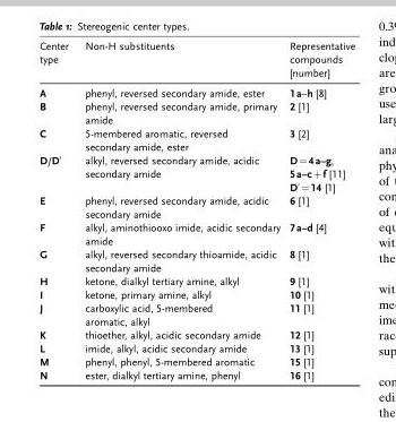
<table><thead><tr><td>Center type</td><td>Non-H substituents</td><td>Representative compounds [number]</td></tr></thead><tbody><tr><td>A</td><td>phenyl, reversed secondary amide, ester</td><td>1a–h [8]</td></tr><tr><td>B</td><td>phenyl, reversed secondary amide, primary amide</td><td>2 [1]</td></tr><tr><td>C</td><td>5-membered aromatic, reversed secondary amide, ester</td><td>3 [2]</td></tr><tr><td>D/D’</td><td>alkyl, reversed secondary amide, acidic secondary amide</td><td>D=4a–g, 5a–c+f [11] D’’=14 [1]</td></tr><tr><td>E</td><td>phenyl, reversed secondary amide, acidic secondary amide</td><td>6 [1]</td></tr><tr><td>F</td><td>alkyl, aminothiooxo imide, acidic secondary amide</td><td>7a–d [4]</td></tr><tr><td>G</td><td>alkyl, reversed secondary thioamide, acidic secondary amide</td><td>8 [1]</td></tr><tr><td>H</td><td>ketone, dialkyl tertiary amine, alkyl</td><td>9 [1]</td></tr><tr><td>I</td><td>ketone, primary amine, alkyl</td><td>10 [1]</td></tr><tr><td>J</td><td>carboxylic acid, 5-membered aromatic, alkyl</td><td>11 [1]</td></tr><tr><td>K</td><td>thioether, alkyl, acidic secondary amide</td><td>12 [1]</td></tr><tr><td>L</td><td>imide, alkyl, acidic secondary amide</td><td>13 [1]</td></tr><tr><td>M</td><td>phenyl, phenyl, 5-membered aromatic</td><td>15 [1]</td></tr><tr><td>N</td><td>ester, dialkyl tertiary amine, phenyl</td><td>16 [1]</td></tr></tbody></table>